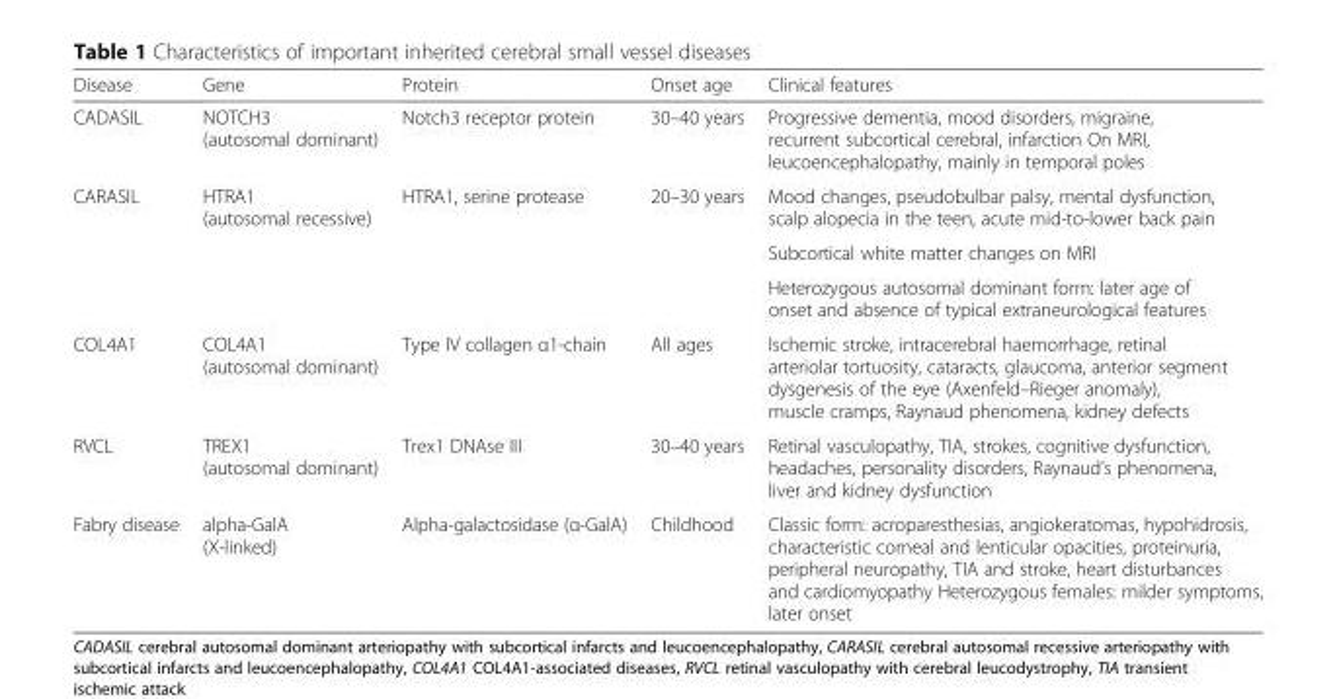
<table><thead><tr><td>Disease</td><td>Gene</td><td>Protein</td><td>Onset age</td><td>Clinical features</td></tr></thead><tbody><tr><td>CADASIL</td><td>NOTCH3 (autosomal dominant)</td><td>Notch3 receptor protein</td><td>30–40 years</td><td>Progressive dementia, mood disorders, migraine, recurrent subcortical cerebral, infarction On MRI, leucoencephalopathy, mainly in temporal poles</td></tr><tr><td rowspan="3">CARASIL</td><td rowspan="3">HTRA1 (autosomal recessive)</td><td rowspan="3">HTRA1, serine protease</td><td rowspan="3">20–30 years</td><td>Mood changes, pseudobulbar palsy, mental dysfunction, scalp alopecia in the teen, acute mid-to-lower back pain</td></tr><tr><td>Subcortical white matter changes on MRI</td></tr><tr><td>Heterozygous autosomal dominant form: later age of onset and absence of typical extraneurological features</td></tr><tr><td>COL4A1</td><td>COL4A1 (autosomal dominant)</td><td>Type IV collagen α1-chain</td><td>All ages</td><td>Ischemic stroke, intracerebral haemorrhage, retinal arteriolar tortuosity, cataracts, glaucoma, anterior segment dysgenesis of the eye (Axenfeld–Rieger anomaly), muscle cramps, Raynaud phenomena, kidney defects</td></tr><tr><td>RVCL</td><td>TREX1 (autosomal dominant)</td><td>Trex1 DNAse III</td><td>30–40 years</td><td>Retinal vasculopathy, TIA, strokes, cognitive dysfunction, headaches, personality disorders, Raynaud’s phenomena, liver and kidney dysfunction</td></tr><tr><td>Fabry disease</td><td>alpha-GalA (X-linked)</td><td>Alpha-galactosidase (α-GalA)</td><td>Childhood</td><td>Classic form: acroparesthesias, angiokeratomas, hypohidrosis, characteristic corneal and lenticular opacities, proteinuria, peripheral neuropathy, TIA and stroke, heart disturbances and cardiomyopathy Heterozygous females: milder symptoms, later onset</td></tr></tbody></table>